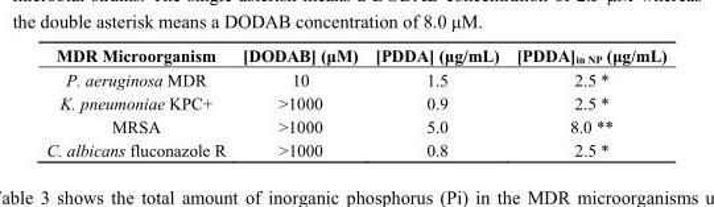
<table><thead><tr><td>MDR Microorganism</td><td>[DODAB] (μM)</td><td>[PDDA] (μg/mL)</td><td>[PDDA]<sub>in NP</sub> (μg/mL)</td></tr></thead><tbody><tr><td>P. aeruginosa MDR</td><td>10</td><td>1.5</td><td>2.5 *</td></tr><tr><td>K. pneumoniae KPC+</td><td>&gt;1000</td><td>0.9</td><td>2.5 *</td></tr><tr><td>MRSA</td><td>&gt;1000</td><td>5.0</td><td>8.0 **</td></tr><tr><td>C. albicans fluconazole R</td><td>&gt;1000</td><td>0.8</td><td>2.5 *</td></tr></tbody></table>